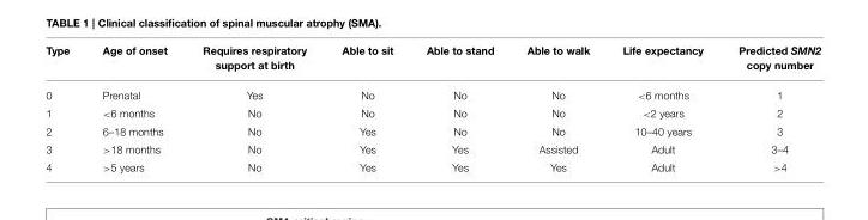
<table><thead><tr><td>Type</td><td>Age of onset</td><td>Requires respiratory support at birth</td><td>Able to sit</td><td>Able to stand</td><td>Able to walk</td><td>Life expectancy</td><td>Predicted SMN2 copy number</td></tr></thead><tbody><tr><td>0</td><td>Prenatal</td><td>Yes</td><td>No</td><td>No</td><td>No</td><td>&lt;6 months</td><td>1</td></tr><tr><td>1</td><td>&lt;6 months</td><td>No</td><td>No</td><td>No</td><td>No</td><td>&lt;2 years</td><td>2</td></tr><tr><td>2</td><td>6–18 months</td><td>No</td><td>Yes</td><td>No</td><td>No</td><td>10–40 years</td><td>3</td></tr><tr><td>3</td><td>&gt;18 months</td><td>No</td><td>Yes</td><td>Yes</td><td>Assisted</td><td>Adult</td><td>3–4</td></tr><tr><td>4</td><td>&gt;5 years</td><td>No</td><td>Yes</td><td>Yes</td><td>Yes</td><td>Adult</td><td>&gt;4</td></tr></tbody></table>